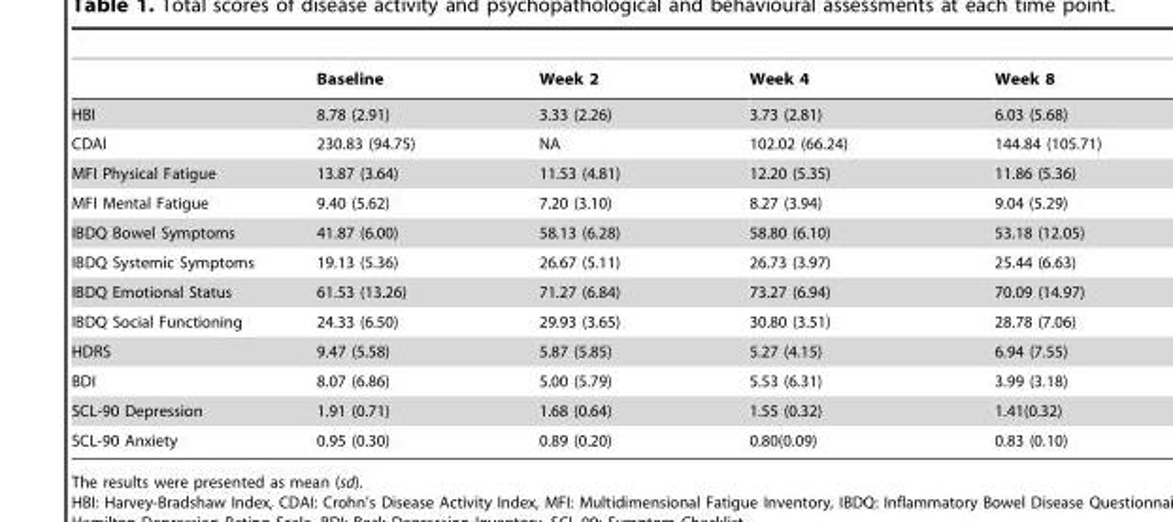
<table><thead><tr><td></td><td>Baseline</td><td>Week 2</td><td>Week 4</td><td>Week 8</td></tr></thead><tbody><tr><td>HBI</td><td>8.78 (2.91)</td><td>3.33 (2.26)</td><td>3.73 (2.81)</td><td>6.03 (5.68)</td></tr><tr><td>CDAI</td><td>230.83 (94.75)</td><td>NA</td><td>102.02 (66.24)</td><td>144.84 (105.71)</td></tr><tr><td>MFI Physical Fatigue</td><td>13.87 (3.64)</td><td>11.53 (4.81)</td><td>12.20 (5.35)</td><td>11.86 (5.36)</td></tr><tr><td>MFI Mental Fatigue</td><td>9.40 (5.62)</td><td>7.20 (3.10)</td><td>8.27 (3.94)</td><td>9.04 (5.29)</td></tr><tr><td>IBDQ Bowel Symptoms</td><td>41.87 (6.00)</td><td>58.13 (6.28)</td><td>58.80 (6.10)</td><td>53.18 (12.05)</td></tr><tr><td>IBDQ Systemic Symptoms</td><td>19.13 (5.36)</td><td>26.67 (5.11)</td><td>26.73 (3.97)</td><td>25.44 (6.63)</td></tr><tr><td>IBDQ Emotional Status</td><td>61.53 (13.26)</td><td>71.27 (6.84)</td><td>73.27 (6.94)</td><td>70.09 (14.97)</td></tr><tr><td>IBDQ Social Functioning</td><td>24.33 (6.50)</td><td>29.93 (3.65)</td><td>30.80 (3.51)</td><td>28.78 (7.06)</td></tr><tr><td>HDRS</td><td>9.47 (5.58)</td><td>5.87 (5.85)</td><td>5.27 (4.15)</td><td>6.94 (7.55)</td></tr><tr><td>BDI</td><td>8.07 (6.86)</td><td>5.00 (5.79)</td><td>5.53 (6.31)</td><td>3.99 (3.18)</td></tr><tr><td>SCL-90 Depression</td><td>1.91 (0.71)</td><td>1.68 (0.64)</td><td>1.55 (0.32)</td><td>1.41(0.32)</td></tr><tr><td>SCL-90 Anxiety</td><td>0.95 (0.30)</td><td>0.89 (0.20)</td><td>0.80(0.09)</td><td>0.83 (0.10)</td></tr></tbody></table>